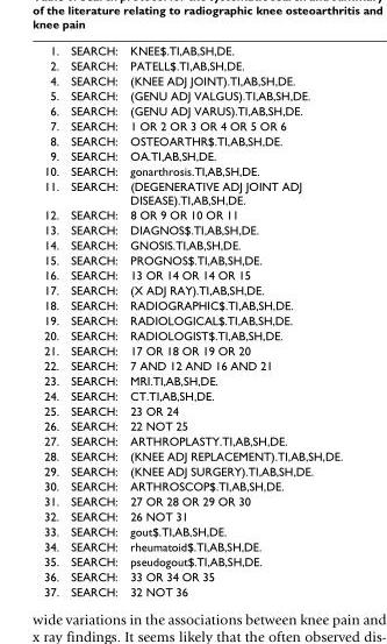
<table><tbody><tr><td>1.</td><td>SEARCH:</td><td>KNEE$.TI,AB,SH,DE.</td></tr><tr><td>2.</td><td>SEARCH:</td><td>PATELL$.TI,AB,SH,DE.</td></tr><tr><td>4.</td><td>SEARCH:</td><td>(KNEE ADJ JOINT).TI,AB,SH,DE.</td></tr><tr><td>5.</td><td>SEARCH:</td><td>(GENU ADJ VALGUS).TI,AB,SH,DE.</td></tr><tr><td>6.</td><td>SEARCH:</td><td>(GENU ADJ VARUS).TI,AB,SH,DE.</td></tr><tr><td>7.</td><td>SEARCH:</td><td>1 OR 2 OR 3 OR 4 OR 5 OR 6</td></tr><tr><td>8.</td><td>SEARCH:</td><td>OSTEOARTHR$.TI,AB,SH,DE.</td></tr><tr><td>9.</td><td>SEARCH:</td><td>OA.TI,AB,SH,DE.</td></tr><tr><td>10.</td><td>SEARCH:</td><td>gonarthrosis.TI,AB,SH,DE.</td></tr><tr><td>11.</td><td>SEARCH:</td><td>(DEGENERATIVE ADJ JOINT ADJ DISEASE).TI,AB,SH,DE.</td></tr><tr><td>12.</td><td>SEARCH:</td><td>8 OR 9 OR 10 OR 11</td></tr><tr><td>13.</td><td>SEARCH:</td><td>DIAGNOS$.TI,AB,SH,DE.</td></tr><tr><td>14.</td><td>SEARCH:</td><td>GNOSIS.TI,AB,SH,DE.</td></tr><tr><td>15.</td><td>SEARCH:</td><td>PROGNOS$.TI,AB,SH,DE.</td></tr><tr><td>16.</td><td>SEARCH:</td><td>13 OR 14 OR 14 OR 15</td></tr><tr><td>17.</td><td>SEARCH:</td><td>(X ADJ RAY).TI,AB,SH,DE.</td></tr><tr><td>18.</td><td>SEARCH:</td><td>RADIOGRAPHIC$.TI,AB,SH,DE.</td></tr><tr><td>19.</td><td>SEARCH:</td><td>RADIOLOGICAL$.TI,AB,SH,DE.</td></tr><tr><td>20.</td><td>SEARCH:</td><td>RADIOLOGIST$.TI,AB,SH,DE.</td></tr><tr><td>21.</td><td>SEARCH:</td><td>17 OR 18 OR 19 OR 20</td></tr><tr><td>22.</td><td>SEARCH:</td><td>7 AND 12 AND 16 AND 21</td></tr><tr><td>23.</td><td>SEARCH:</td><td>MRI.TI,AB,SH,DE.</td></tr><tr><td>24.</td><td>SEARCH:</td><td>CT.TI,AB,SH,DE.</td></tr><tr><td>25.</td><td>SEARCH:</td><td>23 OR 24</td></tr><tr><td>26.</td><td>SEARCH:</td><td>22 NOT 25</td></tr><tr><td>27.</td><td>SEARCH:</td><td>ARTHROPLASTY.TI,AB,SH,DE.</td></tr><tr><td>28.</td><td>SEARCH:</td><td>(KNEE ADJ REPLACEMENT).TI,AB,SH,DE.</td></tr><tr><td>29.</td><td>SEARCH:</td><td>(KNEE ADJ SURGERY).TI,AB,SH,DE.</td></tr><tr><td>30.</td><td>SEARCH:</td><td>ARTHROSCOP$.TI,AB,SH,DE.</td></tr><tr><td>31.</td><td>SEARCH:</td><td>27 OR 28 OR 29 OR 30</td></tr><tr><td>32.</td><td>SEARCH:</td><td>26 NOT 31</td></tr><tr><td>33.</td><td>SEARCH:</td><td>gout$.TI,AB,SH,DE.</td></tr><tr><td>34.</td><td>SEARCH:</td><td>rheumatoid$.TI,AB,SH,DE.</td></tr><tr><td>35.</td><td>SEARCH:</td><td>pseudogout$.TI,AB,SH,DE.</td></tr><tr><td>36.</td><td>SEARCH:</td><td>33 OR 34 OR 35</td></tr><tr><td>37.</td><td>SEARCH:</td><td>32 NOT 36</td></tr></tbody></table>